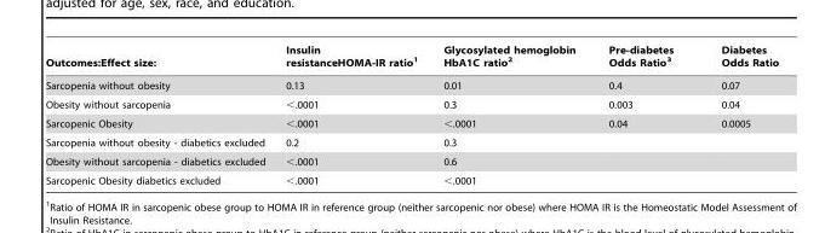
<table><thead><tr><td>Outcomes:Effect size:</td><td>Insulin resistanceHOMA-IR ratio<sup>1</sup></td><td>Glycosylated hemoglobin HbA1C ratio<sup>2</sup></td><td>Pre-diabetes Odds Ratio<sup>3</sup></td><td>Diabetes Odds Ratio</td></tr></thead><tbody><tr><td>Sarcopenia without obesity</td><td>0.13</td><td>0.01</td><td>0.4</td><td>0.07</td></tr><tr><td>Obesity without sarcopenia</td><td>&lt;.0001</td><td>0.3</td><td>0.003</td><td>0.04</td></tr><tr><td>Sarcopenic Obesity</td><td>&lt;.0001</td><td>&lt;.0001</td><td>0.04</td><td>0.0005</td></tr><tr><td>Sarcopenia without obesity - diabetics excluded</td><td>0.2</td><td>0.3</td><td></td><td></td></tr><tr><td>Obesity without sarcopenia - diabetics excluded</td><td>&lt;.0001</td><td>0.6</td><td></td><td></td></tr><tr><td>Sarcopenic Obesity diabetics excluded</td><td>&lt;.0001</td><td>&lt;.0001</td><td></td><td></td></tr></tbody></table>